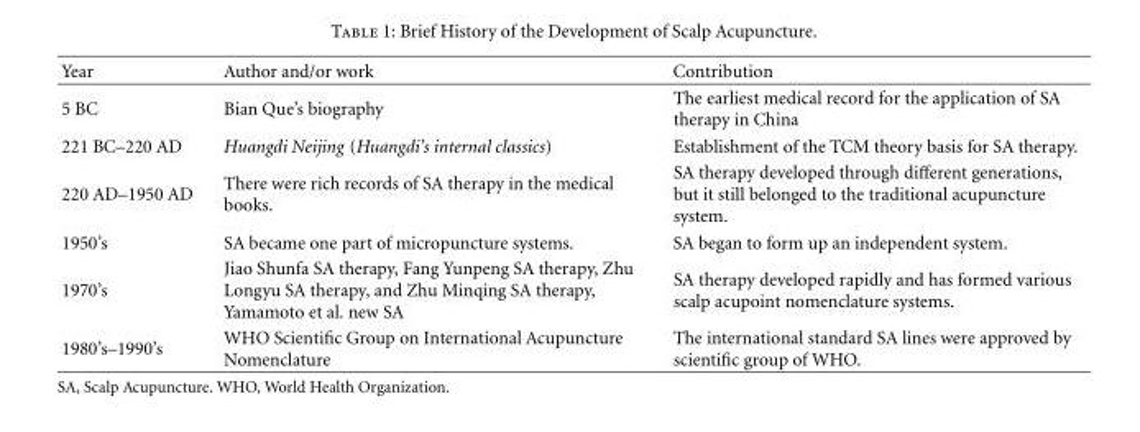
<table><thead><tr><td>Year</td><td>Author and/or work</td><td>Contribution</td></tr></thead><tbody><tr><td>5 BC</td><td>Bian Que’s biography</td><td>The earliest medical record for the application of SA therapy in China</td></tr><tr><td>221 BC–220 AD</td><td>Huangdi Neijing (Huangdi’s internal classics)</td><td>Establishment of the TCM theory basis for SA therapy.</td></tr><tr><td>220 AD–1950 AD</td><td>There were rich records of SA therapy in the medical books.</td><td>SA therapy developed through different generations, but it still belonged to the traditional acupuncture system.</td></tr><tr><td>1950’s</td><td>SA became one part of micropuncture systems.</td><td>SA began to form up an independent system.</td></tr><tr><td>1970’s</td><td>Jiao Shunfa SA therapy, Fang Yunpeng SA therapy, Zhu Longyu SA therapy, and Zhu Minqing SA therapy, Yamamoto et al. new SA</td><td>SA therapy developed rapidly and has formed various scalp acupoint nomenclature systems.</td></tr><tr><td>1980’s–1990’s</td><td>WHO Scientific Group on International Acupuncture Nomenclature</td><td>The international standard SA lines were approved by scientific group of WHO.</td></tr></tbody></table>